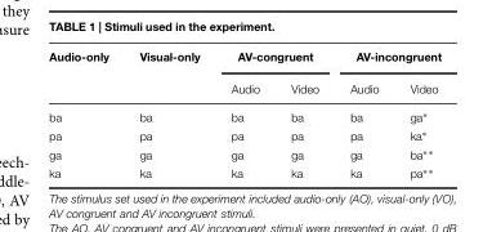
<table><thead><tr><td rowspan="2">Audio-only</td><td rowspan="2">Visual-only</td><td colspan="2">AV-congruent</td><td colspan="2">AV-incongruent</td></tr><tr><td>Audio</td><td>Video</td><td>Audio</td><td>Video</td></tr></thead><tbody><tr><td>ba</td><td>ba</td><td>ba</td><td>ba</td><td>ba</td><td>ga∗</td></tr><tr><td>pa</td><td>pa</td><td>pa</td><td>pa</td><td>pa</td><td>ka∗</td></tr><tr><td>ga</td><td>ga</td><td>ga</td><td>ga</td><td>ga</td><td>ba∗∗</td></tr><tr><td>ka</td><td>ka</td><td>ka</td><td>ka</td><td>ka</td><td>pa∗∗</td></tr></tbody></table>